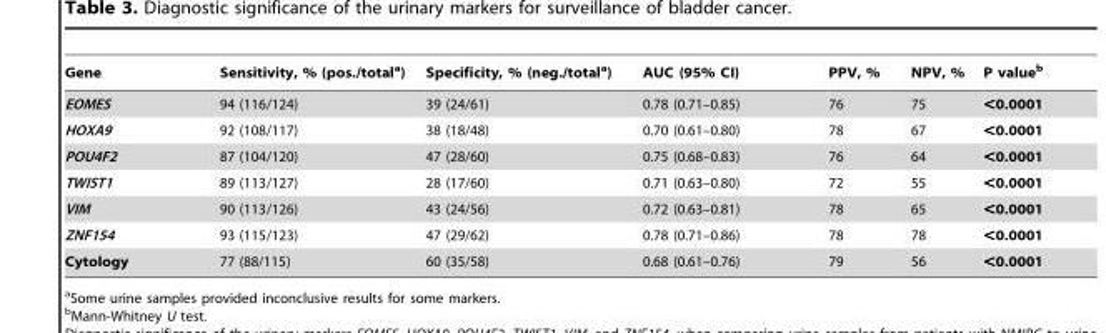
<table><thead><tr><td>Gene</td><td>Sensitivity, % (pos./total<sup>a</sup>)</td><td>Specificity, % (neg./total<sup>a</sup>)</td><td>AUC (95% CI)</td><td>PPV, %</td><td>NPV, %</td><td>P value<sup>b</sup></td></tr></thead><tbody><tr><td>EOMES</td><td>94 (116/124)</td><td>39 (24/61)</td><td>0.78 (0.71–0.85)</td><td>76</td><td>75</td><td>&lt;0.0001</td></tr><tr><td>HOXA9</td><td>92 (108/117)</td><td>38 (18/48)</td><td>0.70 (0.61–0.80)</td><td>78</td><td>67</td><td>&lt;0.0001</td></tr><tr><td>POU4F2</td><td>87 (104/120)</td><td>47 (28/60)</td><td>0.75 (0.68–0.83)</td><td>76</td><td>64</td><td>&lt;0.0001</td></tr><tr><td>TWIST1</td><td>89 (113/127)</td><td>28 (17/60)</td><td>0.71 (0.63–0.80)</td><td>72</td><td>55</td><td>&lt;0.0001</td></tr><tr><td>VIM</td><td>90 (113/126)</td><td>43 (24/56)</td><td>0.72 (0.63–0.81)</td><td>78</td><td>65</td><td>&lt;0.0001</td></tr><tr><td>ZNF154</td><td>93 (115/123)</td><td>47 (29/62)</td><td>0.78 (0.71–0.86)</td><td>78</td><td>78</td><td>&lt;0.0001</td></tr><tr><td>Cytology</td><td>77 (88/115)</td><td>60 (35/58)</td><td>0.68 (0.61–0.76)</td><td>79</td><td>56</td><td>&lt;0.0001</td></tr></tbody></table>